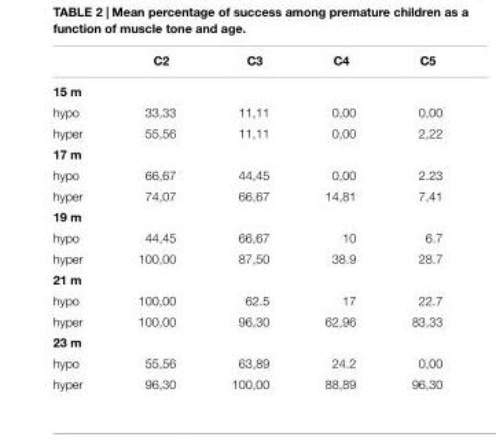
<table><thead><tr><td></td><td>C2</td><td>C3</td><td>C4</td><td>C5</td></tr></thead><tbody><tr><td colspan="5">15 m</td></tr><tr><td>hypo</td><td>33,33</td><td>11,11</td><td>0,00</td><td>0,00</td></tr><tr><td>hyper</td><td>55,56</td><td>11,11</td><td>0,00</td><td>2,22</td></tr><tr><td colspan="5">17 m</td></tr><tr><td>hypo</td><td>66,67</td><td>44,45</td><td>0,00</td><td>2.23</td></tr><tr><td>hyper</td><td>74,07</td><td>66,67</td><td>14,81</td><td>7,41</td></tr><tr><td colspan="5">19 m</td></tr><tr><td>hypo</td><td>44,45</td><td>66,67</td><td>10</td><td>6.7</td></tr><tr><td>hyper</td><td>100,00</td><td>87,50</td><td>38.9</td><td>28.7</td></tr><tr><td colspan="5">21 m</td></tr><tr><td>hypo</td><td>100,00</td><td>62.5</td><td>17</td><td>22.7</td></tr><tr><td>hyper</td><td>100,00</td><td>96,30</td><td>62,96</td><td>83,33</td></tr><tr><td colspan="5">23 m</td></tr><tr><td>hypo</td><td>55,56</td><td>63,89</td><td>24.2</td><td>0,00</td></tr><tr><td>hyper</td><td>96,30</td><td>100,00</td><td>88,89</td><td>96,30</td></tr></tbody></table>